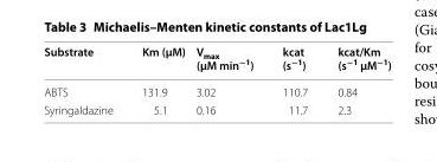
<table><thead><tr><td>Substrate</td><td>Km (μM)</td><td>V<sub>max</sub> (μM min<sup>−1</sup>)</td><td>kcat (s<sup>−1</sup>)</td><td>kcat/Km (s<sup>−1</sup> μM<sup>−1</sup>)</td></tr></thead><tbody><tr><td>ABTS</td><td>131.9</td><td>3.02</td><td>110.7</td><td>0.84</td></tr><tr><td>Syringaldazine</td><td>5.1</td><td>0.16</td><td>11.7</td><td>2.3</td></tr></tbody></table>